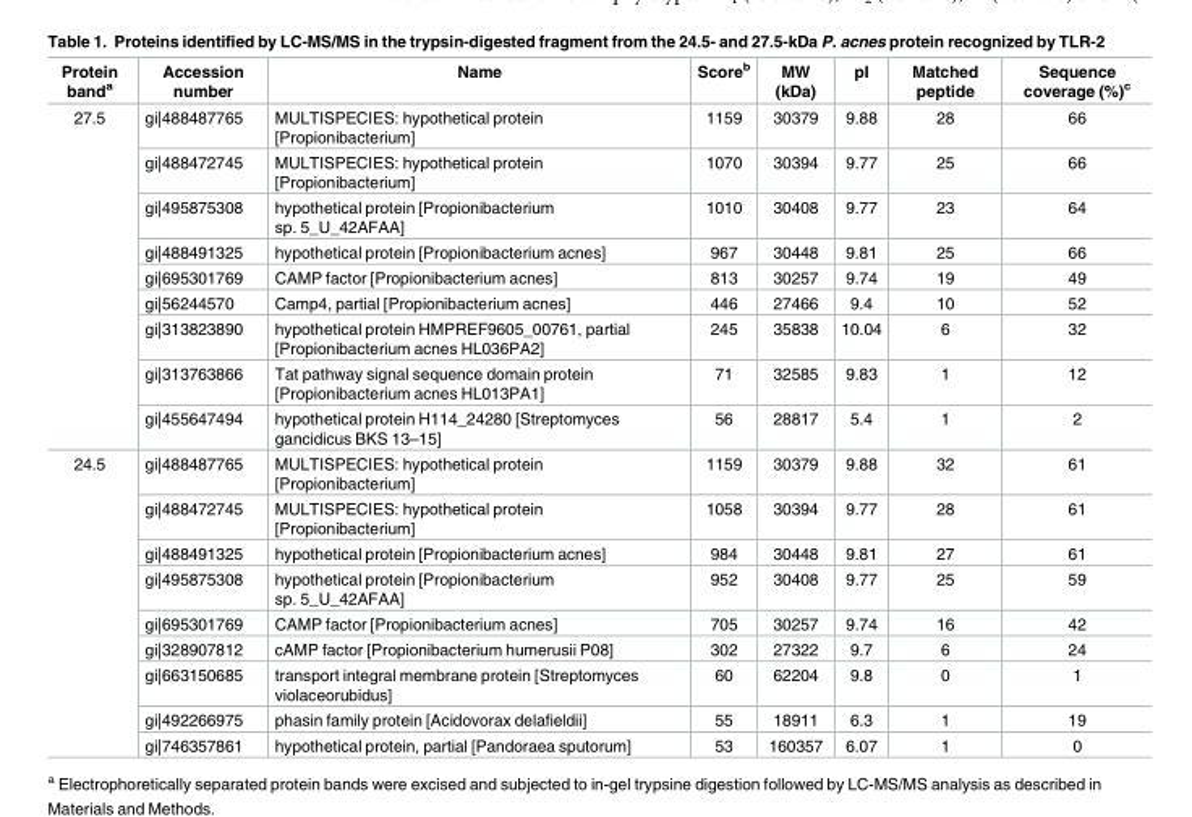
<table><thead><tr><td>Protein band<sup>a</sup></td><td>Accession number</td><td>Name</td><td>Score<sup>b</sup></td><td>MW (kDa)</td><td>pI</td><td>Matched peptide</td><td>Sequence coverage (%)<sup>c</sup></td></tr></thead><tbody><tr><td rowspan="9">27.5</td><td>gi|488487765</td><td>MULTISPECIES: hypothetical protein [Propionibacterium]</td><td>1159</td><td>30379</td><td>9.88</td><td>28</td><td>66</td></tr><tr><td>gi|488472745</td><td>MULTISPECIES: hypothetical protein [Propionibacterium]</td><td>1070</td><td>30394</td><td>9.77</td><td>25</td><td>66</td></tr><tr><td>gi|495875308</td><td>hypothetical protein [Propionibacterium sp. 5_U_42AFAA]</td><td>1010</td><td>30408</td><td>9.77</td><td>23</td><td>64</td></tr><tr><td>gi|488491325</td><td>hypothetical protein [Propionibacterium acnes]</td><td>967</td><td>30448</td><td>9.81</td><td>25</td><td>66</td></tr><tr><td>gi|695301769</td><td>CAMP factor [Propionibacterium acnes]</td><td>813</td><td>30257</td><td>9.74</td><td>19</td><td>49</td></tr><tr><td>gi|56244570</td><td>Camp4, partial [Propionibacterium acnes]</td><td>446</td><td>27466</td><td>9.4</td><td>10</td><td>52</td></tr><tr><td>gi|313823890</td><td>hypothetical protein HMPREF9605_00761, partial [Propionibacterium acnes HL036PA2]</td><td>245</td><td>35838</td><td>10.04</td><td>6</td><td>32</td></tr><tr><td>gi|313763866</td><td>Tat pathway signal sequence domain protein [Propionibacterium acnes HL013PA1]</td><td>71</td><td>32585</td><td>9.83</td><td>1</td><td>12</td></tr><tr><td>gi|455647494</td><td>hypothetical protein H114_24280 [Streptomyces gancidicus BKS 13–15]</td><td>56</td><td>28817</td><td>5.4</td><td>1</td><td>2</td></tr><tr><td rowspan="9">24.5</td><td>gi|488487765</td><td>MULTISPECIES: hypothetical protein [Propionibacterium]</td><td>1159</td><td>30379</td><td>9.88</td><td>32</td><td>61</td></tr><tr><td>gi|488472745</td><td>MULTISPECIES: hypothetical protein [Propionibacterium]</td><td>1058</td><td>30394</td><td>9.77</td><td>28</td><td>61</td></tr><tr><td>gi|488491325</td><td>hypothetical protein [Propionibacterium acnes]</td><td>984</td><td>30448</td><td>9.81</td><td>27</td><td>61</td></tr><tr><td>gi|495875308</td><td>hypothetical protein [Propionibacterium sp. 5_U_42AFAA]</td><td>952</td><td>30408</td><td>9.77</td><td>25</td><td>59</td></tr><tr><td>gi|695301769</td><td>CAMP factor [Propionibacterium acnes]</td><td>705</td><td>30257</td><td>9.74</td><td>16</td><td>42</td></tr><tr><td>gi|328907812</td><td>cAMP factor [Propionibacterium humerusii P08]</td><td>302</td><td>27322</td><td>9.7</td><td>6</td><td>24</td></tr><tr><td>gi|663150685</td><td>transport integral membrane protein [Streptomyces violaceorubidus]</td><td>60</td><td>62204</td><td>9.8</td><td>0</td><td>1</td></tr><tr><td>gi|492266975</td><td>phasin family protein [Acidovorax delafieldii]</td><td>55</td><td>18911</td><td>6.3</td><td>1</td><td>19</td></tr><tr><td>gi|746357861</td><td>hypothetical protein, partial [Pandoraea sputorum]</td><td>53</td><td>160357</td><td>6.07</td><td>1</td><td>0</td></tr></tbody></table>